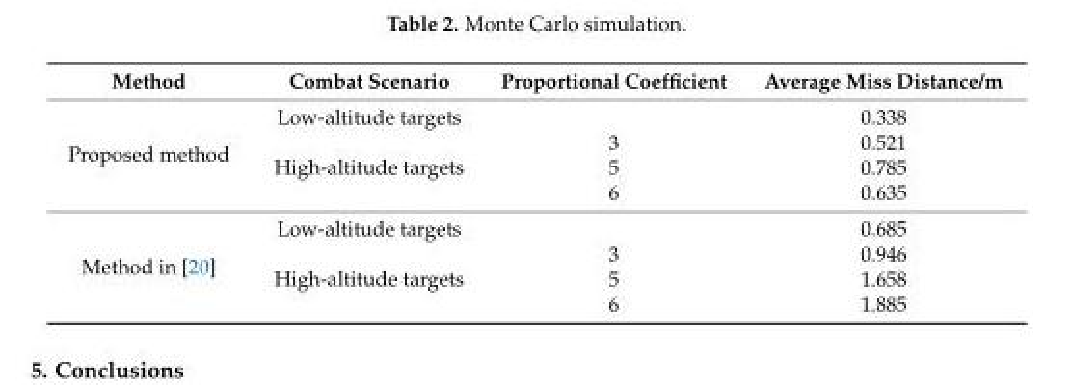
<table><thead><tr><td>Method</td><td>Combat Scenario</td><td>Proportional Coefficient</td><td>Average Miss Distance/m</td></tr></thead><tbody><tr><td rowspan="4">Proposed method</td><td>Low-altitude targets</td><td></td><td>0.338</td></tr><tr><td rowspan="3">High-altitude targets</td><td>3</td><td>0.521</td></tr><tr><td>5</td><td>0.785</td></tr><tr><td>6</td><td>0.635</td></tr><tr><td rowspan="4">Method in [20]</td><td>Low-altitude targets</td><td></td><td>0.685</td></tr><tr><td rowspan="3">High-altitude targets</td><td>3</td><td>0.946</td></tr><tr><td>5</td><td>1.658</td></tr><tr><td>6</td><td>1.885</td></tr></tbody></table>